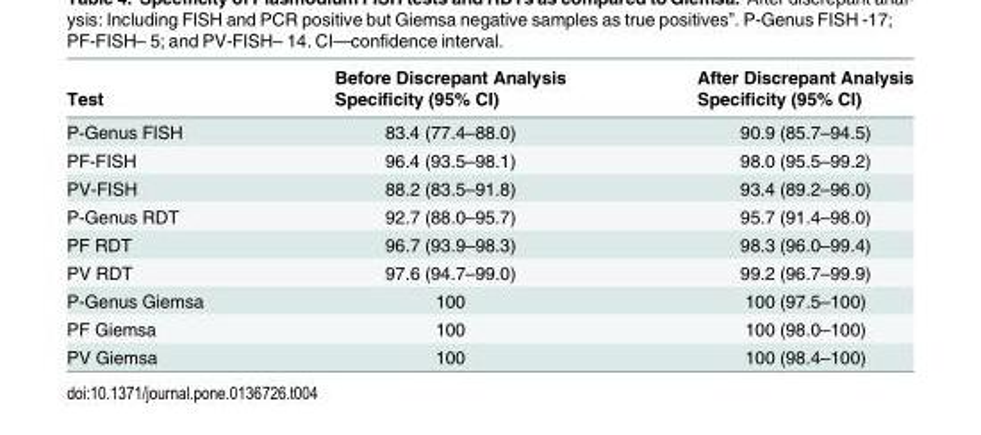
<table><thead><tr><td rowspan="2">Test</td><td rowspan="2">Before Discrepant Analysis Specificity (95% CI)</td><td rowspan="2">After Discrepant Analysis Specificity (95% CI)</td></tr><tr></tr></thead><tbody><tr><td>P-Genus FISH</td><td>83.4 (77.4–88.0)</td><td>90.9 (85.7–94.5)</td></tr><tr><td>PF-FISH</td><td>96.4 (93.5–98.1)</td><td>98.0 (95.5–99.2)</td></tr><tr><td>PV-FISH</td><td>88.2 (83.5–91.8)</td><td>93.4 (89.2–96.0)</td></tr><tr><td>P-Genus RDT</td><td>92.7 (88.0–95.7)</td><td>95.7 (91.4–98.0)</td></tr><tr><td>PF RDT</td><td>96.7 (93.9–98.3)</td><td>98.3 (96.0–99.4)</td></tr><tr><td>PV RDT</td><td>97.6 (94.7–99.0)</td><td>99.2 (96.7–99.9)</td></tr><tr><td>P-Genus Giemsa</td><td>100</td><td>100 (97.5–100)</td></tr><tr><td>PF Giemsa</td><td>100</td><td>100 (98.0–100)</td></tr><tr><td>PV Giemsa</td><td>100</td><td>100 (98.4–100)</td></tr></tbody></table>